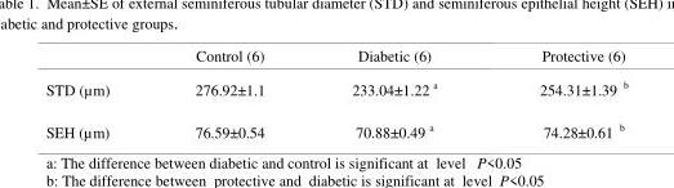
<table><thead><tr><td></td><td>Control (6)</td><td>Diabetic (6)</td><td>Protective (6)</td></tr></thead><tbody><tr><td>STD (µm)</td><td>276.92±1.1</td><td>233.04±1.22 <sup>a</sup></td><td>254.31±1.39 <sup>b</sup></td></tr><tr><td>SEH (µm)</td><td>76.59±0.54</td><td>70.88±0.49 <sup>a</sup></td><td>74.28±0.61 <sup>b</sup></td></tr></tbody></table>